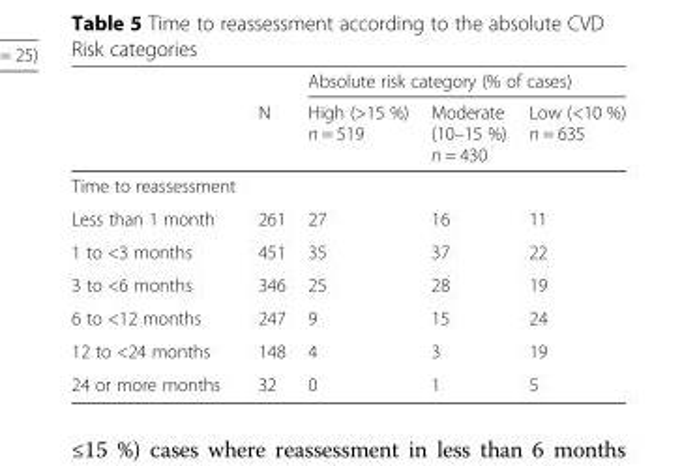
<table><thead><tr><td rowspan="2"></td><td rowspan="2">N</td><td colspan="3">Absolute risk category (% of cases)</td></tr><tr><td>High (&gt;15 %) n = 519</td><td>Moderate (10–15 %) n = 430</td><td>Low (&lt;10 %) n = 635</td></tr></thead><tbody><tr><td colspan="5">Time to reassessment</td></tr><tr><td>Less than 1 month</td><td>261</td><td>27</td><td>16</td><td>11</td></tr><tr><td>1 to &lt;3 months</td><td>451</td><td>35</td><td>37</td><td>22</td></tr><tr><td>3 to &lt;6 months</td><td>346</td><td>25</td><td>28</td><td>19</td></tr><tr><td>6 to &lt;12 months</td><td>247</td><td>9</td><td>15</td><td>24</td></tr><tr><td>12 to &lt;24 months</td><td>148</td><td>4</td><td>3</td><td>19</td></tr><tr><td>24 or more months</td><td>32</td><td>0</td><td>1</td><td>5</td></tr></tbody></table>